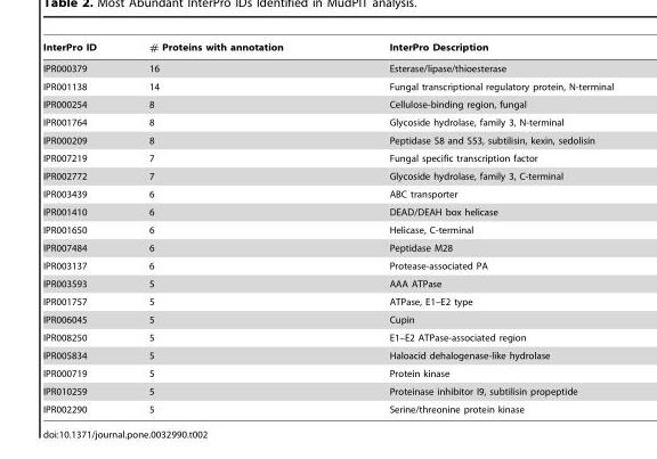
<table><thead><tr><td>InterPro ID</td><td># Proteins with annotation</td><td>InterPro Description</td></tr></thead><tbody><tr><td>IPR000379</td><td>16</td><td>Esterase/lipase/thioesterase</td></tr><tr><td>IPR001138</td><td>14</td><td>Fungal transcriptional regulatory protein, N-terminal</td></tr><tr><td>IPR000254</td><td>8</td><td>Cellulose-binding region, fungal</td></tr><tr><td>IPR001764</td><td>8</td><td>Glycoside hydrolase, family 3, N-terminal</td></tr><tr><td>IPR000209</td><td>8</td><td>Peptidase S8 and S53, subtilisin, kexin, sedolisin</td></tr><tr><td>IPR007219</td><td>7</td><td>Fungal specific transcription factor</td></tr><tr><td>IPR002772</td><td>7</td><td>Glycoside hydrolase, family 3, C-terminal</td></tr><tr><td>IPR003439</td><td>6</td><td>ABC transporter</td></tr><tr><td>IPR001410</td><td>6</td><td>DEAD/DEAH box helicase</td></tr><tr><td>IPR001650</td><td>6</td><td>Helicase, C-terminal</td></tr><tr><td>IPR007484</td><td>6</td><td>Peptidase M28</td></tr><tr><td>IPR003137</td><td>6</td><td>Protease-associated PA</td></tr><tr><td>IPR003593</td><td>5</td><td>AAA ATPase</td></tr><tr><td>IPR001757</td><td>5</td><td>ATPase, E1–E2 type</td></tr><tr><td>IPR006045</td><td>5</td><td>Cupin</td></tr><tr><td>IPR008250</td><td>5</td><td>E1–E2 ATPase-associated region</td></tr><tr><td>IPR005834</td><td>5</td><td>Haloacid dehalogenase-like hydrolase</td></tr><tr><td>IPR000719</td><td>5</td><td>Protein kinase</td></tr><tr><td>IPR010259</td><td>5</td><td>Proteinase inhibitor I9, subtilisin propeptide</td></tr><tr><td>IPR002290</td><td>5</td><td>Serine/threonine protein kinase</td></tr></tbody></table>